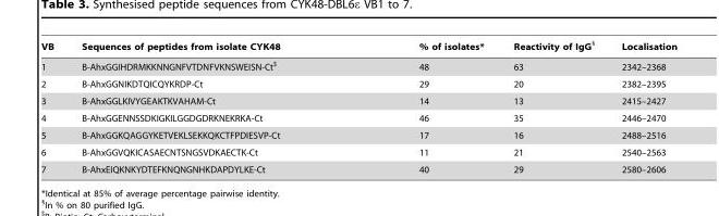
<table><thead><tr><td>VB</td><td>Sequences of peptides from isolate CYK48</td><td>% of isolates*</td><td>Reactivity of IgG§</td><td>Localisation</td></tr></thead><tbody><tr><td>1</td><td>B-AhxGGIHDRMKKNNGNFVTDNFVKNSWEISN-Ct$</td><td>48</td><td>63</td><td>2342–2368</td></tr><tr><td>2</td><td>B-AhxGGNIKDTQICQYKRDP-Ct</td><td>29</td><td>20</td><td>2382–2395</td></tr><tr><td>3</td><td>B-AhxGGLKIVYGEAKTKVAHAM-Ct</td><td>14</td><td>13</td><td>2415–2427</td></tr><tr><td>4</td><td>B-AhxGGENNSSDKIGKILGGDGDRKNEKRKA-Ct</td><td>46</td><td>35</td><td>2446–2470</td></tr><tr><td>5</td><td>B-AhxGGKQAGGYKETVEKLSEKKQKCTFPDIESVP-Ct</td><td>17</td><td>16</td><td>2488–2516</td></tr><tr><td>6</td><td>B-AhxGGVQKICASAECNTSNGSVDKAECTK-Ct</td><td>11</td><td>21</td><td>2540–2563</td></tr><tr><td>7</td><td>B-AhxEIQKNKYDTEFKNQNGNHKDAPDYLKE-Ct</td><td>40</td><td>29</td><td>2580–2606</td></tr></tbody></table>